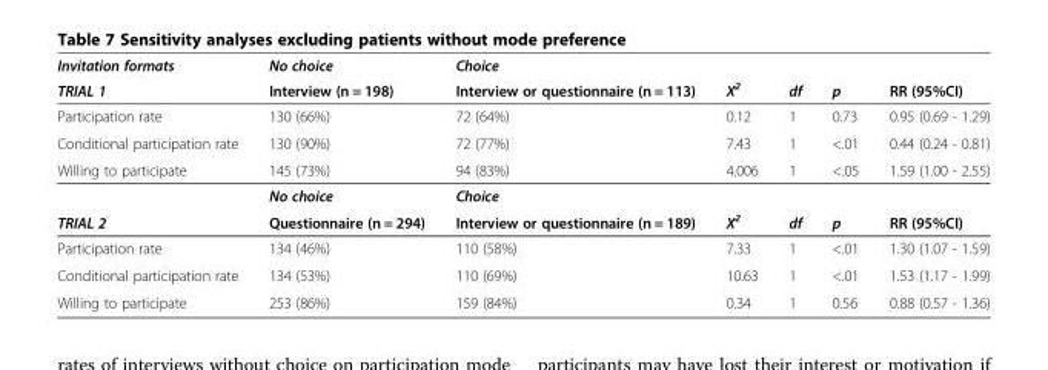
<table><thead><tr><td rowspan="2">Invitation formats TRIAL 1</td><td rowspan="2">No choice Interview (n = 198)</td><td rowspan="2">Choice Interview or questionnaire (n = 113)</td><td rowspan="2">X<sup>2</sup></td><td rowspan="2">df</td><td rowspan="2">p</td><td rowspan="2">RR (95%CI)</td></tr><tr></tr></thead><tbody><tr><td>Participation rate</td><td>130 (66%)</td><td>72 (64%)</td><td>0.12</td><td>1</td><td>0.73</td><td>0.95 (0.69 - 1.29)</td></tr><tr><td>Conditional participation rate</td><td>130 (90%)</td><td>72 (77%)</td><td>7.43</td><td>1</td><td>&lt;.01</td><td>0.44 (0.24 - 0.81)</td></tr><tr><td rowspan="2">Willing to participate</td><td>145 (73%)</td><td>94 (83%)</td><td>4.006</td><td>1</td><td>&lt;.05</td><td>1.59 (1.00 - 2.55)</td></tr><tr><td>No choice</td><td>Choice</td><td></td><td></td><td></td><td></td></tr><tr><td>TRIAL 2</td><td>Questionnaire (n = 294)</td><td>Interview or questionnaire (n = 189)</td><td>X<sup>2</sup></td><td>df</td><td>p</td><td>RR (95%CI)</td></tr><tr><td>Participation rate</td><td>134 (46%)</td><td>110 (58%)</td><td>7.33</td><td>1</td><td>&lt;.01</td><td>1.30 (1.07 - 1.59)</td></tr><tr><td>Conditional participation rate</td><td>134 (53%)</td><td>110 (69%)</td><td>10.63</td><td>1</td><td>&lt;.01</td><td>1.53 (1.17 - 1.99)</td></tr><tr><td>Willing to participate</td><td>253 (86%)</td><td>159 (84%)</td><td>0.34</td><td>1</td><td>0.56</td><td>0.88 (0.57 - 1.36)</td></tr></tbody></table>